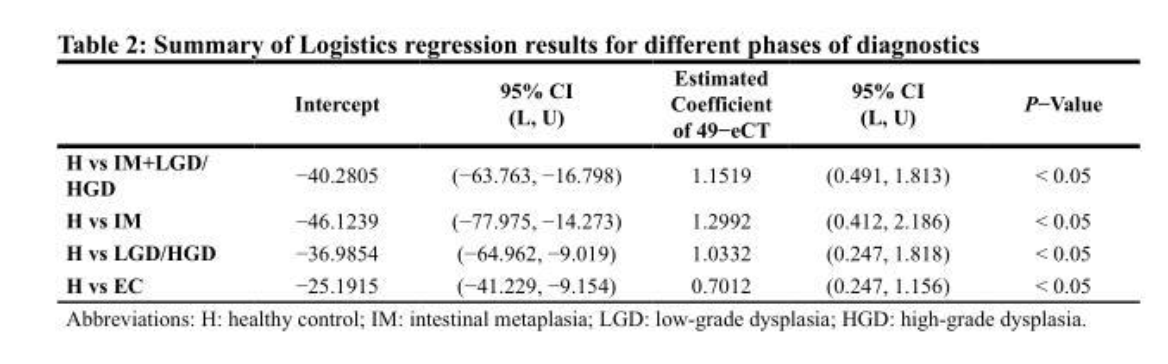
<table><thead><tr><td></td><td>Intercept</td><td>95% CI (L, U)</td><td>Estimated Coefficient of 49−eCT</td><td>95% CI (L, U)</td><td>P−Value</td></tr></thead><tbody><tr><td>H vs IM+LGD/ HGD</td><td>−40.2805</td><td>(−63.763, −16.798)</td><td>1.1519</td><td>(0.491, 1.813)</td><td>&lt; 0.05</td></tr><tr><td>H vs IM</td><td>−46.1239</td><td>(−77.975, −14.273)</td><td>1.2992</td><td>(0.412, 2.186)</td><td>&lt; 0.05</td></tr><tr><td>H vs LGD/HGD</td><td>−36.9854</td><td>(−64.962, −9.019)</td><td>1.0332</td><td>(0.247, 1.818)</td><td>&lt; 0.05</td></tr><tr><td>H vs EC</td><td>−25.1915</td><td>(−41.229, −9.154)</td><td>0.7012</td><td>(0.247, 1.156)</td><td>&lt; 0.05</td></tr></tbody></table>